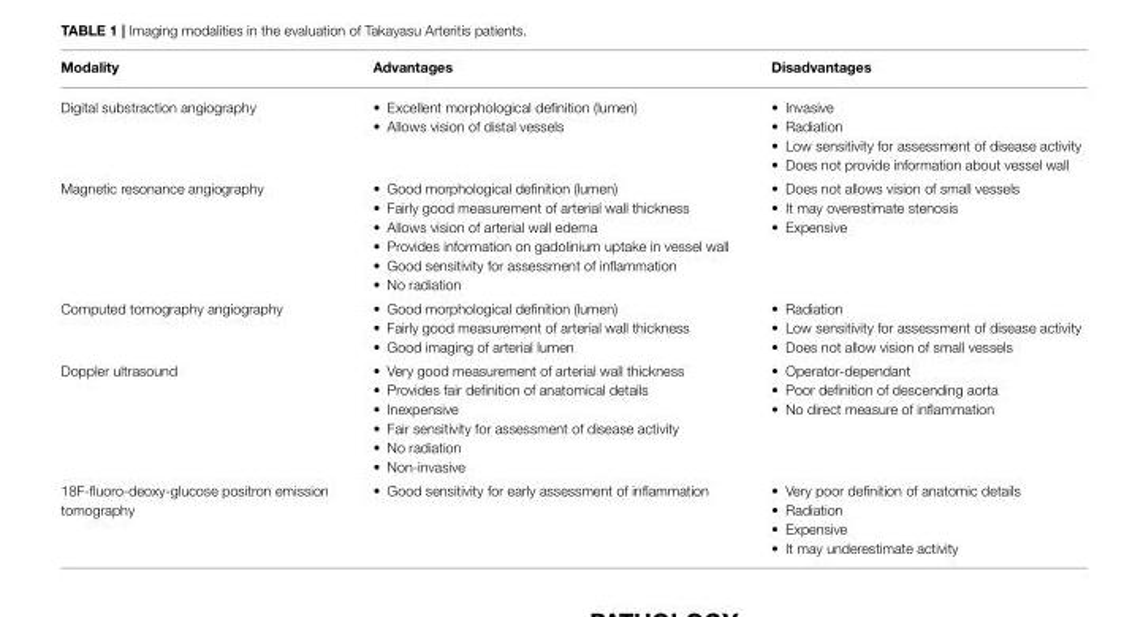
<table><thead><tr><td>Modality</td><td>Advantages</td><td>Disadvantages</td></tr></thead><tbody><tr><td>Digital substraction angiography</td><td>• Excellent morphological definition (lumen) • Allows vision of distal vessels</td><td>• Invasive • Radiation • Low sensitivity for assessment of disease activity • Does not provide information about vessel wall</td></tr><tr><td>Magnetic resonance angiography</td><td>• Good morphological definition (lumen) • Fairly good measurement of arterial wall thickness • Allows vision of arterial wall edema • Provides information on gadolinium uptake in vessel wall • Good sensitivity for assessment of inflammation • No radiation</td><td>• Does not allows vision of small vessels • It may overestimate stenosis • Expensive</td></tr><tr><td>Computed tomography angiography</td><td>• Good morphological definition (lumen) • Fairly good measurement of arterial wall thickness • Good imaging of arterial lumen</td><td>• Radiation • Low sensitivity for assessment of disease activity • Does not allow vision of small vessels</td></tr><tr><td>Doppler ultrasound</td><td>• Very good measurement of arterial wall thickness • Provides fair definition of anatomical details • Inexpensive • Fair sensitivity for assessment of disease activity • No radiation • Non-invasive</td><td>• Operator-dependant • Poor definition of descending aorta • No direct measure of inflammation</td></tr><tr><td>18F-fluoro-deoxy-glucose positron emission tomography</td><td>• Good sensitivity for early assessment of inflammation</td><td>• Very poor definition of anatomic details • Radiation • Expensive • It may underestimate activity</td></tr></tbody></table>